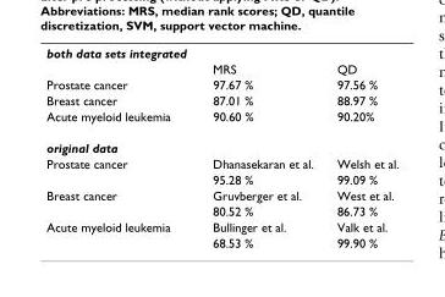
<table><tbody><tr><td colspan="3">both data sets integrated</td></tr><tr><td></td><td>MRS</td><td>QD</td></tr><tr><td>Prostate cancer</td><td>97.67 %</td><td>97.56 %</td></tr><tr><td>Breast cancer</td><td>87.01 %</td><td>88.97 %</td></tr><tr><td>Acute myeloid leukemia</td><td>90.60 %</td><td>90.20%</td></tr><tr><td colspan="3">original data</td></tr><tr><td rowspan="2">Prostate cancer</td><td>Dhanasekaran et al.</td><td>Welsh et al.</td></tr><tr><td>95.28 %</td><td>99.09 %</td></tr><tr><td rowspan="2">Breast cancer</td><td>Gruvberger et al.</td><td>West et al.</td></tr><tr><td>80.52 %</td><td>86.73 %</td></tr><tr><td rowspan="2">Acute myeloid leukemia</td><td>Bullinger et al.</td><td>Valk et al.</td></tr><tr><td>68.53 %</td><td>99.90 %</td></tr></tbody></table>